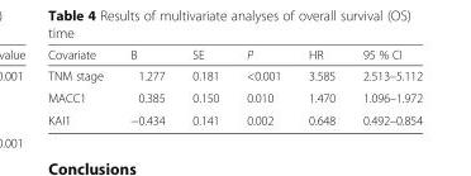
<table><thead><tr><td>Covariate</td><td>B</td><td>SE</td><td>P</td><td>HR</td><td>95 % CI</td></tr></thead><tbody><tr><td>TNM stage</td><td>1.277</td><td>0.181</td><td>&lt;0.001</td><td>3.585</td><td>2.513–5.112</td></tr><tr><td>MACC1</td><td>0.385</td><td>0.150</td><td>0.010</td><td>1.470</td><td>1.096–1.972</td></tr><tr><td>KAI1</td><td>−0.434</td><td>0.141</td><td>0.002</td><td>0.648</td><td>0.492–0.854</td></tr></tbody></table>